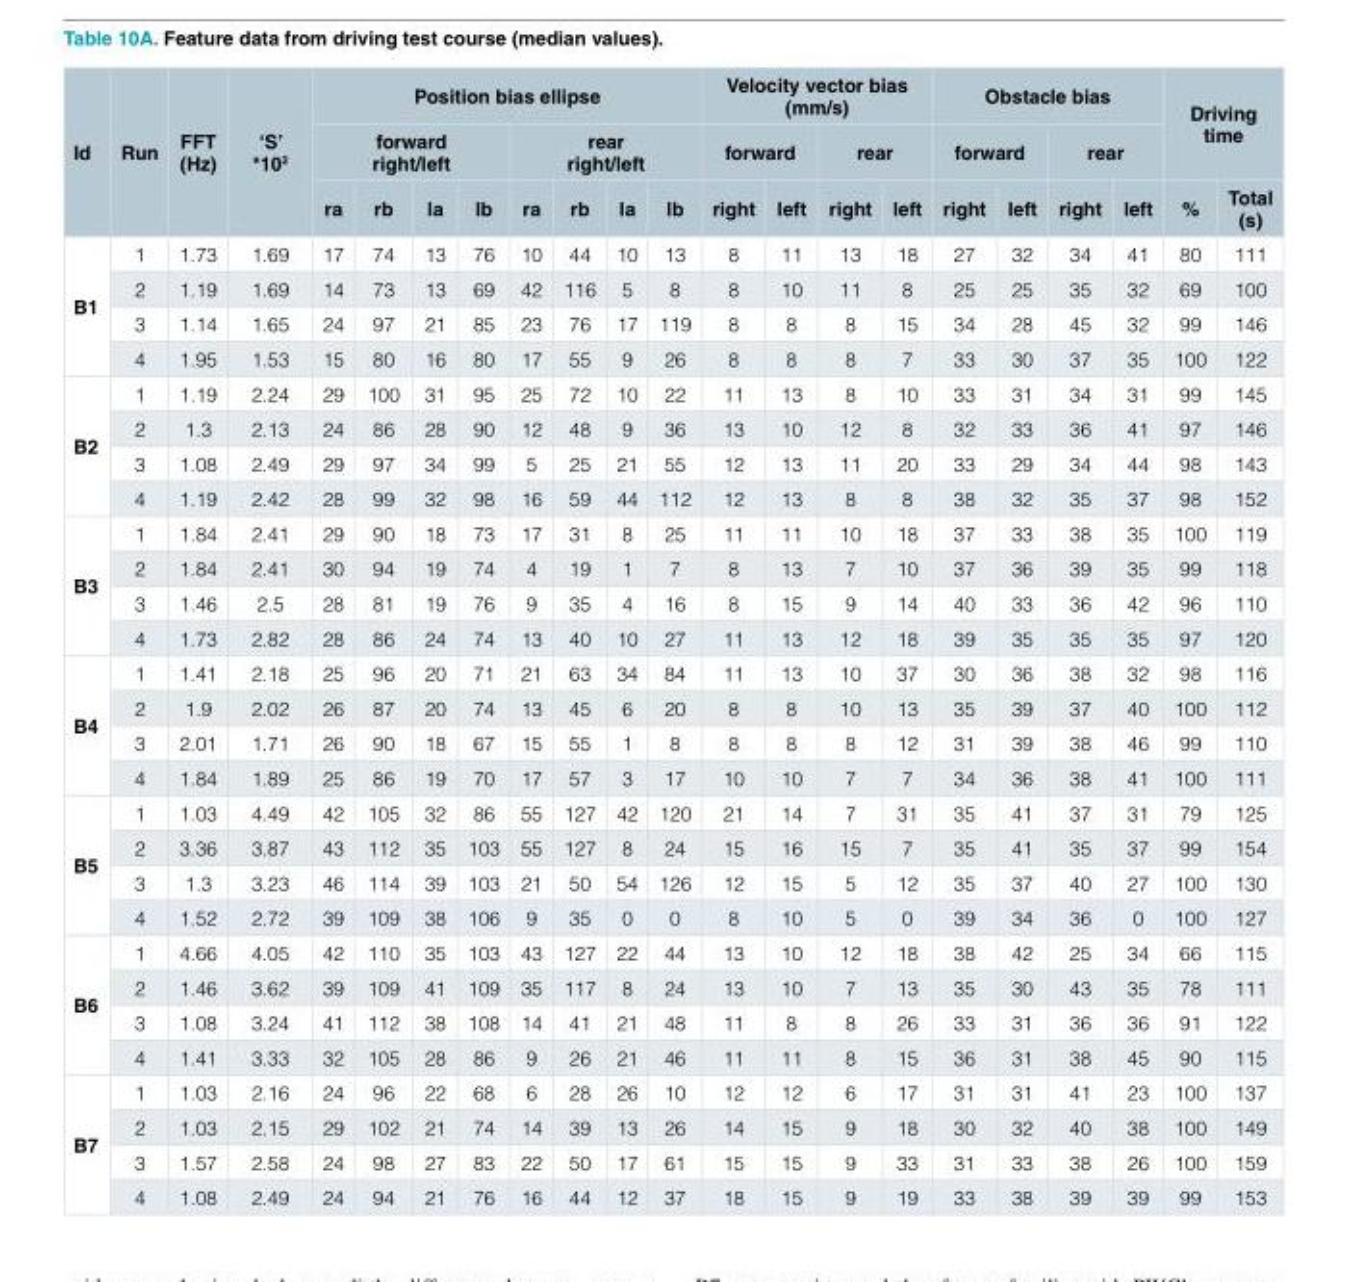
<table><thead><tr><td rowspan="3">Id</td><td rowspan="3">Run</td><td rowspan="3">FFT (Hz)</td><td rowspan="3">‘S’ *10<sup>2</sup></td><td colspan="8">Position bias ellipse</td><td colspan="4">Velocity vector bias (mm/s)</td><td colspan="4">Obstacle bias</td><td rowspan="2" colspan="2">Driving time</td></tr><tr><td colspan="4">forward right/left</td><td colspan="4">rear right/left</td><td colspan="2">forward</td><td colspan="2">rear</td><td colspan="2">forward</td><td colspan="2">rear</td></tr><tr><td>ra</td><td>rb</td><td>la</td><td>lb</td><td>ra</td><td>rb</td><td>la</td><td>lb</td><td>right</td><td>left</td><td>right</td><td>left</td><td>right</td><td>left</td><td>right</td><td>left</td><td>%</td><td>Total (s)</td></tr></thead><tbody><tr><td rowspan="4">B1</td><td>1</td><td>1.73</td><td>1.69</td><td>17</td><td>74</td><td>13</td><td>76</td><td>10</td><td>44</td><td>10</td><td>13</td><td>8</td><td>11</td><td>13</td><td>18</td><td>27</td><td>32</td><td>34</td><td>41</td><td>80</td><td>111</td></tr><tr><td>2</td><td>1.19</td><td>1.69</td><td>14</td><td>73</td><td>13</td><td>69</td><td>42</td><td>116</td><td>5</td><td>8</td><td>8</td><td>10</td><td>11</td><td>8</td><td>25</td><td>25</td><td>35</td><td>32</td><td>69</td><td>100</td></tr><tr><td>3</td><td>1.14</td><td>1.65</td><td>24</td><td>97</td><td>21</td><td>85</td><td>23</td><td>76</td><td>17</td><td>119</td><td>8</td><td>8</td><td>8</td><td>15</td><td>34</td><td>28</td><td>45</td><td>32</td><td>99</td><td>146</td></tr><tr><td>4</td><td>1.95</td><td>1.53</td><td>15</td><td>80</td><td>16</td><td>80</td><td>17</td><td>55</td><td>9</td><td>26</td><td>8</td><td>8</td><td>8</td><td>7</td><td>33</td><td>30</td><td>37</td><td>35</td><td>100</td><td>122</td></tr><tr><td rowspan="4">B2</td><td>1</td><td>1.19</td><td>2.24</td><td>29</td><td>100</td><td>31</td><td>95</td><td>25</td><td>72</td><td>10</td><td>22</td><td>11</td><td>13</td><td>8</td><td>10</td><td>33</td><td>31</td><td>34</td><td>31</td><td>99</td><td>145</td></tr><tr><td>2</td><td>1.3</td><td>2.13</td><td>24</td><td>86</td><td>28</td><td>90</td><td>12</td><td>48</td><td>9</td><td>36</td><td>13</td><td>10</td><td>12</td><td>8</td><td>32</td><td>33</td><td>36</td><td>41</td><td>97</td><td>146</td></tr><tr><td>3</td><td>1.08</td><td>2.49</td><td>29</td><td>97</td><td>34</td><td>99</td><td>5</td><td>25</td><td>21</td><td>55</td><td>12</td><td>13</td><td>11</td><td>20</td><td>33</td><td>29</td><td>34</td><td>44</td><td>98</td><td>143</td></tr><tr><td>4</td><td>1.19</td><td>2.42</td><td>28</td><td>99</td><td>32</td><td>98</td><td>16</td><td>59</td><td>44</td><td>112</td><td>12</td><td>13</td><td>8</td><td>8</td><td>38</td><td>32</td><td>35</td><td>37</td><td>98</td><td>152</td></tr><tr><td rowspan="4">B3</td><td>1</td><td>1.84</td><td>2.41</td><td>29</td><td>90</td><td>18</td><td>73</td><td>17</td><td>31</td><td>8</td><td>25</td><td>11</td><td>11</td><td>10</td><td>18</td><td>37</td><td>33</td><td>38</td><td>35</td><td>100</td><td>119</td></tr><tr><td>2</td><td>1.84</td><td>2.41</td><td>30</td><td>94</td><td>19</td><td>74</td><td>4</td><td>19</td><td>1</td><td>7</td><td>8</td><td>13</td><td>7</td><td>10</td><td>37</td><td>36</td><td>39</td><td>35</td><td>99</td><td>118</td></tr><tr><td>3</td><td>1.46</td><td>2.5</td><td>28</td><td>81</td><td>19</td><td>76</td><td>9</td><td>35</td><td>4</td><td>16</td><td>8</td><td>15</td><td>9</td><td>14</td><td>40</td><td>33</td><td>36</td><td>42</td><td>96</td><td>110</td></tr><tr><td>4</td><td>1.73</td><td>2.82</td><td>28</td><td>86</td><td>24</td><td>74</td><td>13</td><td>40</td><td>10</td><td>27</td><td>11</td><td>13</td><td>12</td><td>18</td><td>39</td><td>35</td><td>35</td><td>35</td><td>97</td><td>120</td></tr><tr><td rowspan="4">B4</td><td>1</td><td>1.41</td><td>2.18</td><td>25</td><td>96</td><td>20</td><td>71</td><td>21</td><td>63</td><td>34</td><td>84</td><td>11</td><td>13</td><td>10</td><td>37</td><td>30</td><td>36</td><td>38</td><td>32</td><td>98</td><td>116</td></tr><tr><td>2</td><td>1.9</td><td>2.02</td><td>26</td><td>87</td><td>20</td><td>74</td><td>13</td><td>45</td><td>6</td><td>20</td><td>8</td><td>8</td><td>10</td><td>13</td><td>35</td><td>39</td><td>37</td><td>40</td><td>100</td><td>112</td></tr><tr><td>3</td><td>2.01</td><td>1.71</td><td>26</td><td>90</td><td>18</td><td>67</td><td>15</td><td>55</td><td>1</td><td>8</td><td>8</td><td>8</td><td>8</td><td>12</td><td>31</td><td>39</td><td>38</td><td>46</td><td>99</td><td>110</td></tr><tr><td>4</td><td>1.84</td><td>1.89</td><td>25</td><td>86</td><td>19</td><td>70</td><td>17</td><td>57</td><td>3</td><td>17</td><td>10</td><td>10</td><td>7</td><td>7</td><td>34</td><td>36</td><td>38</td><td>41</td><td>100</td><td>111</td></tr><tr><td rowspan="4">B5</td><td>1</td><td>1.03</td><td>4.49</td><td>42</td><td>105</td><td>32</td><td>86</td><td>55</td><td>127</td><td>42</td><td>120</td><td>21</td><td>14</td><td>7</td><td>31</td><td>35</td><td>41</td><td>37</td><td>31</td><td>79</td><td>125</td></tr><tr><td>2</td><td>3.36</td><td>3.87</td><td>43</td><td>112</td><td>35</td><td>103</td><td>55</td><td>127</td><td>8</td><td>24</td><td>15</td><td>16</td><td>15</td><td>7</td><td>35</td><td>41</td><td>35</td><td>37</td><td>99</td><td>154</td></tr><tr><td>3</td><td>1.3</td><td>3.23</td><td>46</td><td>114</td><td>39</td><td>103</td><td>21</td><td>50</td><td>54</td><td>126</td><td>12</td><td>15</td><td>5</td><td>12</td><td>35</td><td>37</td><td>40</td><td>27</td><td>100</td><td>130</td></tr><tr><td>4</td><td>1.52</td><td>2.72</td><td>39</td><td>109</td><td>38</td><td>106</td><td>9</td><td>35</td><td>0</td><td>0</td><td>8</td><td>10</td><td>5</td><td>0</td><td>39</td><td>34</td><td>36</td><td>0</td><td>100</td><td>127</td></tr><tr><td rowspan="4">B6</td><td>1</td><td>4.66</td><td>4.05</td><td>42</td><td>110</td><td>35</td><td>103</td><td>43</td><td>127</td><td>22</td><td>44</td><td>13</td><td>10</td><td>12</td><td>18</td><td>38</td><td>42</td><td>25</td><td>34</td><td>66</td><td>115</td></tr><tr><td>2</td><td>1.46</td><td>3.62</td><td>39</td><td>109</td><td>41</td><td>109</td><td>35</td><td>117</td><td>8</td><td>24</td><td>13</td><td>10</td><td>7</td><td>13</td><td>35</td><td>30</td><td>43</td><td>35</td><td>78</td><td>111</td></tr><tr><td>3</td><td>1.08</td><td>3.24</td><td>41</td><td>112</td><td>38</td><td>108</td><td>14</td><td>41</td><td>21</td><td>48</td><td>11</td><td>8</td><td>8</td><td>26</td><td>33</td><td>31</td><td>36</td><td>36</td><td>91</td><td>122</td></tr><tr><td>4</td><td>1.41</td><td>3.33</td><td>32</td><td>105</td><td>28</td><td>86</td><td>9</td><td>26</td><td>21</td><td>46</td><td>11</td><td>11</td><td>8</td><td>15</td><td>36</td><td>31</td><td>38</td><td>45</td><td>90</td><td>115</td></tr><tr><td rowspan="4">B7</td><td>1</td><td>1.03</td><td>2.16</td><td>24</td><td>96</td><td>22</td><td>68</td><td>6</td><td>28</td><td>26</td><td>10</td><td>12</td><td>12</td><td>6</td><td>17</td><td>31</td><td>31</td><td>41</td><td>23</td><td>100</td><td>137</td></tr><tr><td>2</td><td>1.03</td><td>2.15</td><td>29</td><td>102</td><td>21</td><td>74</td><td>14</td><td>39</td><td>13</td><td>26</td><td>14</td><td>15</td><td>9</td><td>18</td><td>30</td><td>32</td><td>40</td><td>38</td><td>100</td><td>149</td></tr><tr><td>3</td><td>1.57</td><td>2.58</td><td>24</td><td>98</td><td>27</td><td>83</td><td>22</td><td>50</td><td>17</td><td>61</td><td>15</td><td>15</td><td>9</td><td>33</td><td>31</td><td>33</td><td>38</td><td>26</td><td>100</td><td>159</td></tr><tr><td>4</td><td>1.08</td><td>2.49</td><td>24</td><td>94</td><td>21</td><td>76</td><td>16</td><td>44</td><td>12</td><td>37</td><td>18</td><td>15</td><td>9</td><td>19</td><td>33</td><td>38</td><td>39</td><td>39</td><td>99</td><td>153</td></tr></tbody></table>